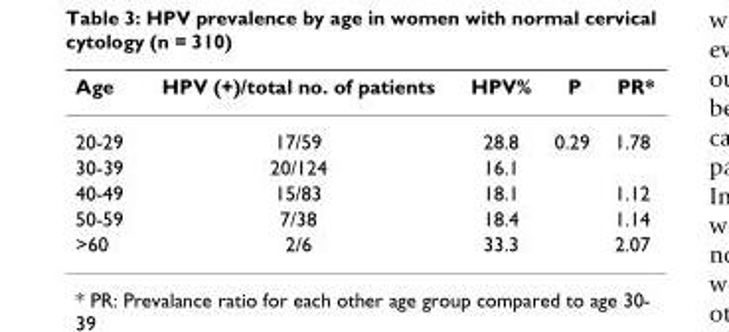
<table><thead><tr><td>Age</td><td>HPV (+)/total no. of patients</td><td>HPV%</td><td>P</td><td>PR*</td></tr></thead><tbody><tr><td>20-29</td><td>17/59</td><td>28.8</td><td>0.29</td><td>1.78</td></tr><tr><td>30-39</td><td>20/124</td><td>16.1</td><td></td><td></td></tr><tr><td>40-49</td><td>15/83</td><td>18.1</td><td></td><td>1.12</td></tr><tr><td>50-59</td><td>7/38</td><td>18.4</td><td></td><td>1.14</td></tr><tr><td>&gt;60</td><td>2/6</td><td>33.3</td><td></td><td>2.07</td></tr></tbody></table>